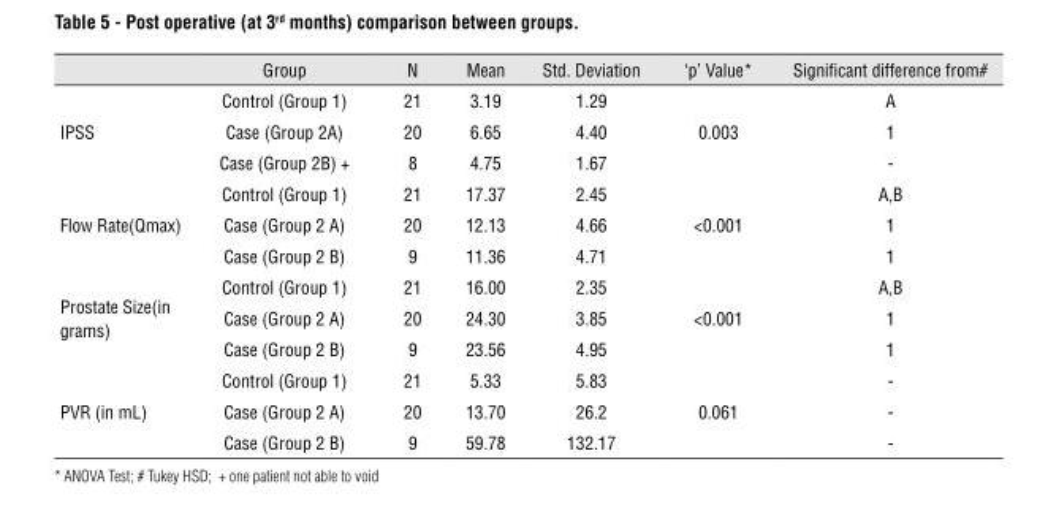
<table><thead><tr><td></td><td>Group</td><td>N</td><td>Mean</td><td>Std. Deviation</td><td>‘p’ Value*</td><td>Significant difference from#</td></tr></thead><tbody><tr><td rowspan="3">IPSS</td><td>Control (Group 1)</td><td>21</td><td>3.19</td><td>1.29</td><td></td><td>A</td></tr><tr><td>Case (Group 2A)</td><td>20</td><td>6.65</td><td>4.40</td><td>0.003</td><td>1</td></tr><tr><td>Case (Group 2B) +</td><td>8</td><td>4.75</td><td>1.67</td><td></td><td>-</td></tr><tr><td rowspan="3">Flow Rate(Qmax)</td><td>Control (Group 1)</td><td>21</td><td>17.37</td><td>2.45</td><td></td><td>A,B</td></tr><tr><td>Case (Group 2 A)</td><td>20</td><td>12.13</td><td>4.66</td><td>&lt;0.001</td><td>1</td></tr><tr><td>Case (Group 2 B)</td><td>9</td><td>11.36</td><td>4.71</td><td></td><td>1</td></tr><tr><td rowspan="3">Prostate Size(in grams)</td><td>Control (Group 1)</td><td>21</td><td>16.00</td><td>2.35</td><td></td><td>A,B</td></tr><tr><td>Case (Group 2 A)</td><td>20</td><td>24.30</td><td>3.85</td><td>&lt;0.001</td><td>1</td></tr><tr><td>Case (Group 2 B)</td><td>9</td><td>23.56</td><td>4.95</td><td></td><td>1</td></tr><tr><td rowspan="3">PVR (in mL)</td><td>Control (Group 1)</td><td>21</td><td>5.33</td><td>5.83</td><td></td><td>-</td></tr><tr><td>Case (Group 2 A)</td><td>20</td><td>13.70</td><td>26.2</td><td>0.061</td><td>-</td></tr><tr><td>Case (Group 2 B)</td><td>9</td><td>59.78</td><td>132.17</td><td></td><td>-</td></tr></tbody></table>